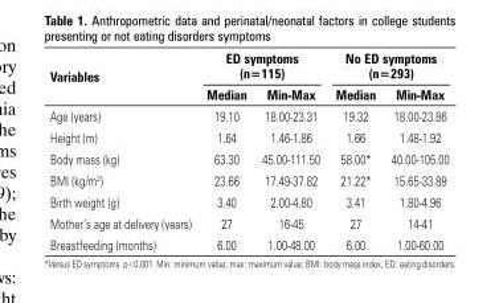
<table><thead><tr><td rowspan="2">Variables</td><td colspan="2">ED symptoms (n=115)</td><td colspan="2">No ED symptoms (n=293)</td></tr><tr><td>Median</td><td>Min-Max</td><td>Median</td><td>Min-Max</td></tr></thead><tbody><tr><td>Age (years)</td><td>19.10</td><td>18.00-23.31</td><td>19.32</td><td>18.00-23.86</td></tr><tr><td>Height (m)</td><td>1.64</td><td>1.46-1.86</td><td>1.66</td><td>1.48-1.92</td></tr><tr><td>Body mass (kg)</td><td>63.30</td><td>45.00-111.50</td><td>58.00*</td><td>40.00-105.00</td></tr><tr><td>BMI (kg/m<sup>2</sup>)</td><td>23.66</td><td>17.49-37.82</td><td>21.22*</td><td>15.65-33.89</td></tr><tr><td>Birth weight (g)</td><td>3.40</td><td>2.00-4.80</td><td>3.41</td><td>1.80-4.96</td></tr><tr><td>Mother’s age at delivery (years)</td><td>27</td><td>16-45</td><td>27</td><td>14-41</td></tr><tr><td>Breastfeeding (months)</td><td>6.00</td><td>1.00-48.00</td><td>6.00</td><td>1.00-60.00</td></tr></tbody></table>